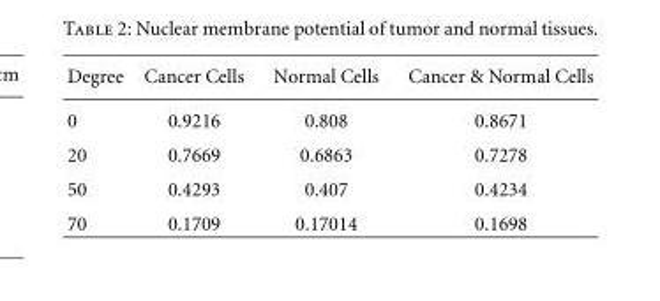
<table><thead><tr><td>Degree</td><td>Cancer Cells</td><td>Normal Cells</td><td>Cancer &amp; Normal Cells</td></tr></thead><tbody><tr><td>0</td><td>0.9216</td><td>0.808</td><td>0.8671</td></tr><tr><td>20</td><td>0.7669</td><td>0.6863</td><td>0.7278</td></tr><tr><td>50</td><td>0.4293</td><td>0.407</td><td>0.4234</td></tr><tr><td>70</td><td>0.1709</td><td>0.17014</td><td>0.1698</td></tr></tbody></table>